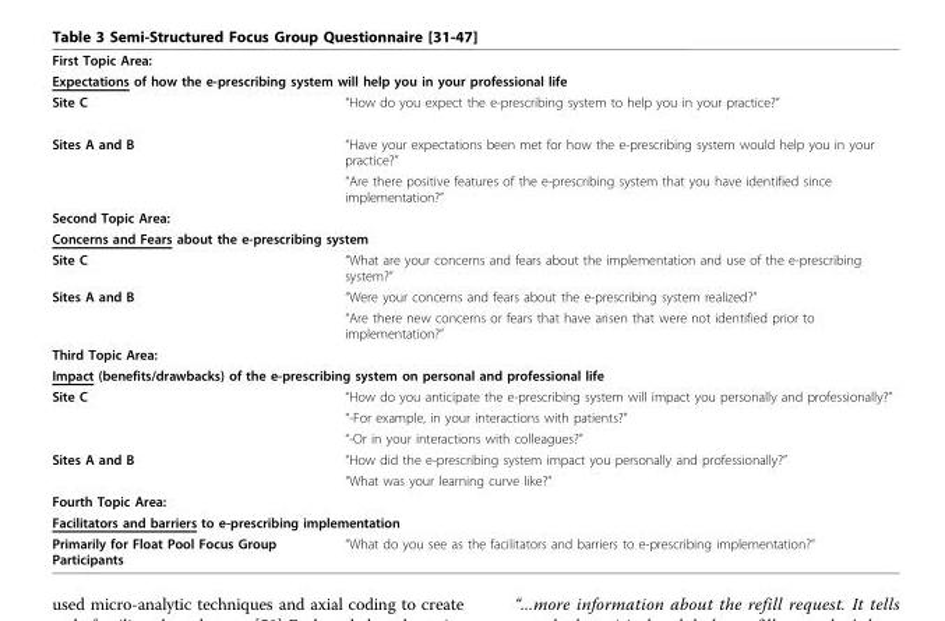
<table><tbody><tr><td colspan="2">First Topic Area:</td></tr><tr><td colspan="2">Expectations of how the e-prescribing system will help you in your professional life</td></tr><tr><td>Site C</td><td>“How do you expect the e-prescribing system to help you in your practice?”</td></tr><tr><td rowspan="2">Sites A and B</td><td>“Have your expectations been met for how the e-prescribing system would help you in your practice?”</td></tr><tr><td>“Are there positive features of the e-prescribing system that you have identified since implementation?”</td></tr><tr><td colspan="2">Second Topic Area:</td></tr><tr><td colspan="2">Concerns and Fears about the e-prescribing system</td></tr><tr><td>Site C</td><td>“What are your concerns and fears about the implementation and use of the e-prescribing system?”</td></tr><tr><td rowspan="2">Sites A and B</td><td>“Were your concerns and fears about the e-prescribing system realized?”</td></tr><tr><td>“Are there new concerns or fears that have arisen that were not identified prior to implementation?”</td></tr><tr><td colspan="2">Third Topic Area:</td></tr><tr><td colspan="2">Impact (benefits/drawbacks) of the e-prescribing system on personal and professional life</td></tr><tr><td rowspan="3">Site C</td><td>“How do you anticipate the e-prescribing system will impact you personally and professionally?”</td></tr><tr><td>“-For example, in your interactions with patients?”</td></tr><tr><td>“-Or in your interactions with colleagues?”</td></tr><tr><td rowspan="2">Sites A and B</td><td>“How did the e-prescribing system impact you personally and professionally?”</td></tr><tr><td>“What was your learning curve like?”</td></tr><tr><td colspan="2">Fourth Topic Area:</td></tr><tr><td colspan="2">Facilitators and barriers to e-prescribing implementation</td></tr><tr><td>Primarily for Float Pool Focus Group Participants</td><td>“What do you see as the facilitators and barriers to e-prescribing implementation?”</td></tr></tbody></table>